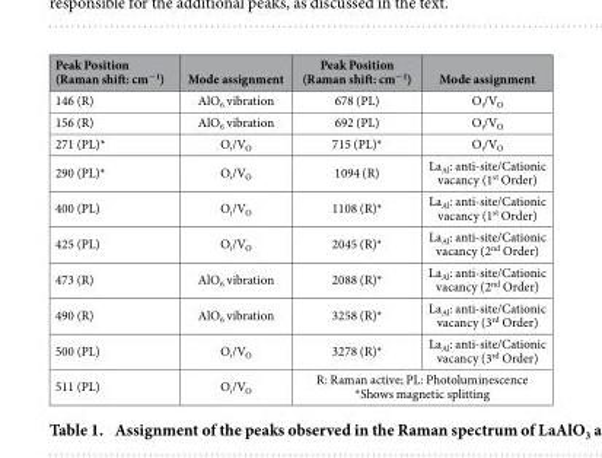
<table><thead><tr><td>Peak Position (Raman shift: cm<sup>−1</sup>)</td><td>Mode assignment</td><td>Peak Position (Raman shift: cm<sup>−1</sup>)</td><td>Mode assignment</td></tr></thead><tbody><tr><td>146 (R)</td><td>AlO<sub>6</sub> vibration</td><td>678 (PL)</td><td>O<sub>i</sub>/V<sub>O</sub></td></tr><tr><td>156 (R)</td><td>AlO<sub>6</sub> vibration</td><td>692 (PL)</td><td>O<sub>i</sub>/V<sub>O</sub></td></tr><tr><td>271 (PL)*</td><td>O<sub>i</sub>/V<sub>O</sub></td><td>715 (PL)*</td><td>O<sub>i</sub>/V<sub>O</sub></td></tr><tr><td>290 (PL)*</td><td>O<sub>i</sub>/V<sub>O</sub></td><td>1094 (R)</td><td>La<sub>Al</sub>: anti-site/Cationic vacancy (1<sup>st</sup> Order)</td></tr><tr><td>400 (PL)</td><td>O<sub>i</sub>/V<sub>O</sub></td><td>1108 (R)*</td><td>La<sub>Al</sub>: anti-site/Cationic vacancy (1<sup>st</sup> Order)</td></tr><tr><td>425 (PL)</td><td>O<sub>i</sub>/V<sub>O</sub></td><td>2045 (R)*</td><td>La<sub>Al</sub>: anti-site/Cationic vacancy (2<sup>nd</sup> Order)</td></tr><tr><td>473 (R)</td><td>AlO<sub>6</sub> vibration</td><td>2088 (R)*</td><td>La<sub>Al</sub>: anti-site/Cationic vacancy (2<sup>nd</sup> Order)</td></tr><tr><td>490 (R)</td><td>AlO<sub>6</sub> vibration</td><td>3258 (R)*</td><td>La<sub>Al</sub>: anti-site/Cationic vacancy (3<sup>rd</sup> Order)</td></tr><tr><td>500 (PL)</td><td>O<sub>i</sub>/V<sub>O</sub></td><td>3278 (R)*</td><td>La<sub>Al</sub>: anti-site/Cationic vacancy (3<sup>rd</sup> Order)</td></tr><tr><td>511 (PL)</td><td>O<sub>i</sub>/V<sub>O</sub></td><td colspan="2">R: Raman active; PL: Photoluminescence *Shows magnetic splitting</td></tr></tbody></table>